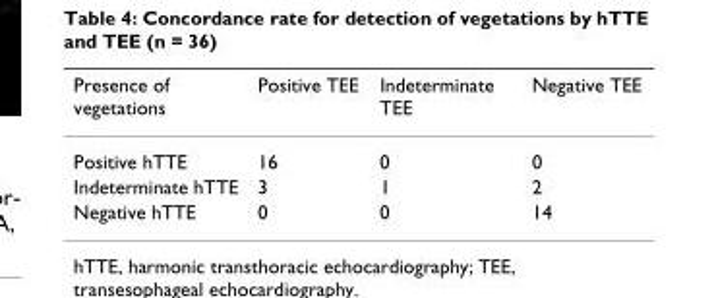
<table><thead><tr><td>Presence of vegetations</td><td>Positive TEE</td><td>Indeterminate TEE</td><td>Negative TEE</td></tr></thead><tbody><tr><td>Positive hTTE</td><td>16</td><td>0</td><td>0</td></tr><tr><td>Indeterminate hTTE</td><td>3</td><td>1</td><td>2</td></tr><tr><td>Negative hTTE</td><td>0</td><td>0</td><td>14</td></tr></tbody></table>